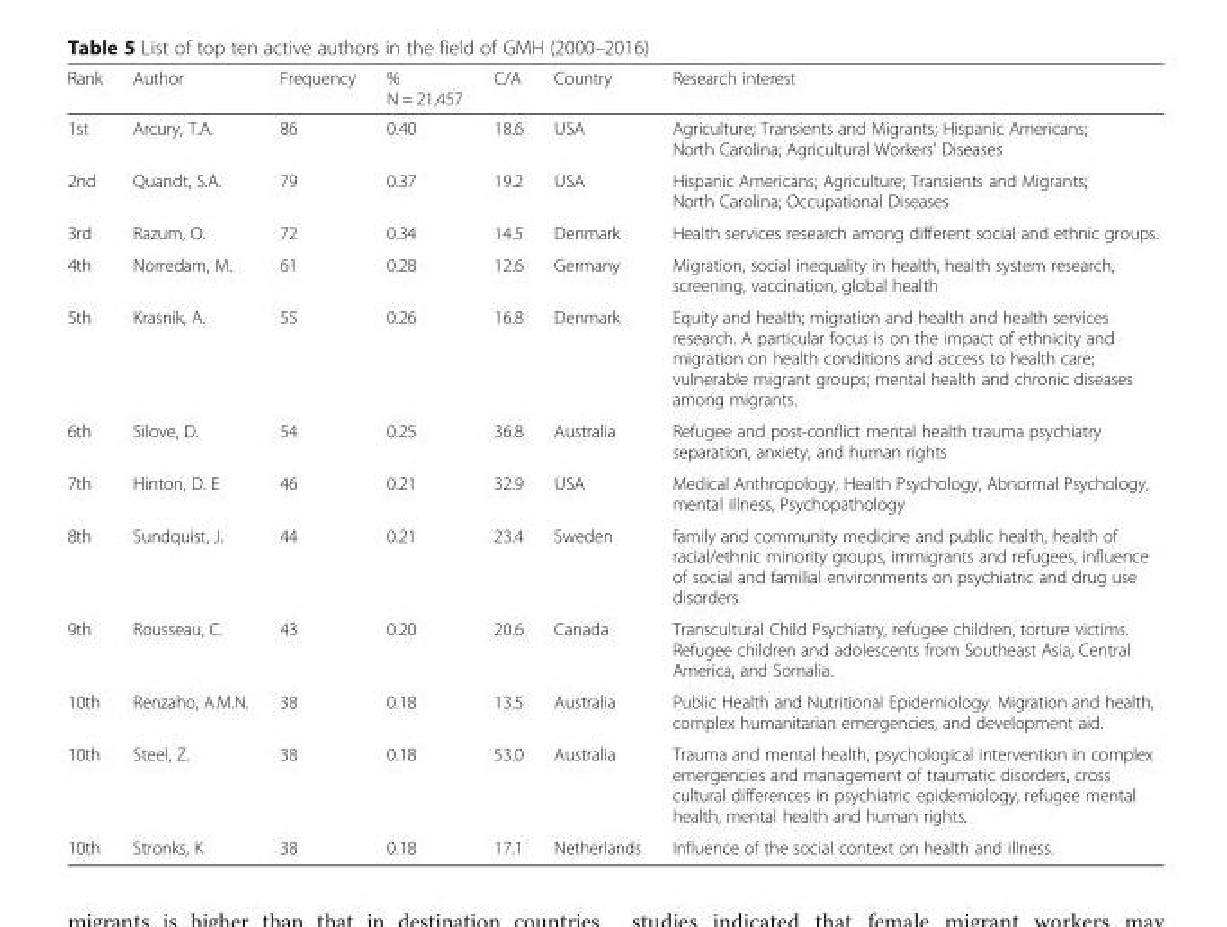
<table><thead><tr><td>Rank</td><td>Author</td><td>Frequency</td><td>% N = 21,457</td><td>C/A</td><td>Country</td><td>Research interest</td></tr></thead><tbody><tr><td>1st</td><td>Arcury, T.A.</td><td>86</td><td>0.40</td><td>18.6</td><td>USA</td><td>Agriculture; Transients and Migrants; Hispanic Americans; North Carolina; Agricultural Workers’ Diseases</td></tr><tr><td>2nd</td><td>Quandt, S.A.</td><td>79</td><td>0.37</td><td>19.2</td><td>USA</td><td>Hispanic Americans; Agriculture; Transients and Migrants; North Carolina; Occupational Diseases</td></tr><tr><td>3rd</td><td>Razum, O.</td><td>72</td><td>0.34</td><td>14.5</td><td>Denmark</td><td>Health services research among different social and ethnic groups.</td></tr><tr><td>4th</td><td>Norredam, M.</td><td>61</td><td>0.28</td><td>12.6</td><td>Germany</td><td>Migration, social inequality in health, health system research, screening, vaccination, global health</td></tr><tr><td>5th</td><td>Krasnik, A.</td><td>55</td><td>0.26</td><td>16.8</td><td>Denmark</td><td>Equity and health; migration and health and health services research. A particular focus is on the impact of ethnicity and migration on health conditions and access to health care; vulnerable migrant groups; mental health and chronic diseases among migrants.</td></tr><tr><td>6th</td><td>Silove, D.</td><td>54</td><td>0.25</td><td>36.8</td><td>Australia</td><td>Refugee and post-conflict mental health trauma psychiatry separation, anxiety, and human rights</td></tr><tr><td>7th</td><td>Hinton, D. E</td><td>46</td><td>0.21</td><td>32.9</td><td>USA</td><td>Medical Anthropology, Health Psychology, Abnormal Psychology, mental illness, Psychopathology</td></tr><tr><td>8th</td><td>Sundquist, J.</td><td>44</td><td>0.21</td><td>23.4</td><td>Sweden</td><td>family and community medicine and public health, health of racial/ethnic minority groups, immigrants and refugees, influence of social and familial environments on psychiatric and drug use disorders</td></tr><tr><td>9th</td><td>Rousseau, C.</td><td>43</td><td>0.20</td><td>20.6</td><td>Canada</td><td>Transcultural Child Psychiatry, refugee children, torture victims. Refugee children and adolescents from Southeast Asia, Central America, and Somalia.</td></tr><tr><td>10th</td><td>Renzaho, A.M.N.</td><td>38</td><td>0.18</td><td>13.5</td><td>Australia</td><td>Public Health and Nutritional Epidemiology. Migration and health, complex humanitarian emergencies, and development aid.</td></tr><tr><td>10th</td><td>Steel, Z.</td><td>38</td><td>0.18</td><td>53.0</td><td>Australia</td><td>Trauma and mental health, psychological intervention in complex emergencies and management of traumatic disorders, cross cultural differences in psychiatric epidemiology, refugee mental health, mental health and human rights.</td></tr><tr><td>10th</td><td>Stronks, K</td><td>38</td><td>0.18</td><td>17.1</td><td>Netherlands</td><td>Influence of the social context on health and illness.</td></tr></tbody></table>